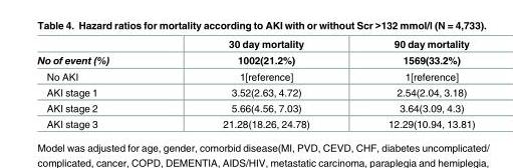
<table><thead><tr><td rowspan="2">No of event (%)</td><td rowspan="2">30 day mortality 1002(21.2%)</td><td rowspan="2">90 day mortality 1569(33.2%)</td></tr><tr></tr></thead><tbody><tr><td>No AKI</td><td>1[reference]</td><td>1[reference]</td></tr><tr><td>AKI stage 1</td><td>3.52(2.63, 4.72)</td><td>2.54(2.04, 3.18)</td></tr><tr><td>AKI stage 2</td><td>5.66(4.56, 7.03)</td><td>3.64(3.09, 4.3)</td></tr><tr><td>AKI stage 3</td><td>21.28(18.26, 24.78)</td><td>12.29(10.94, 13.81)</td></tr></tbody></table>